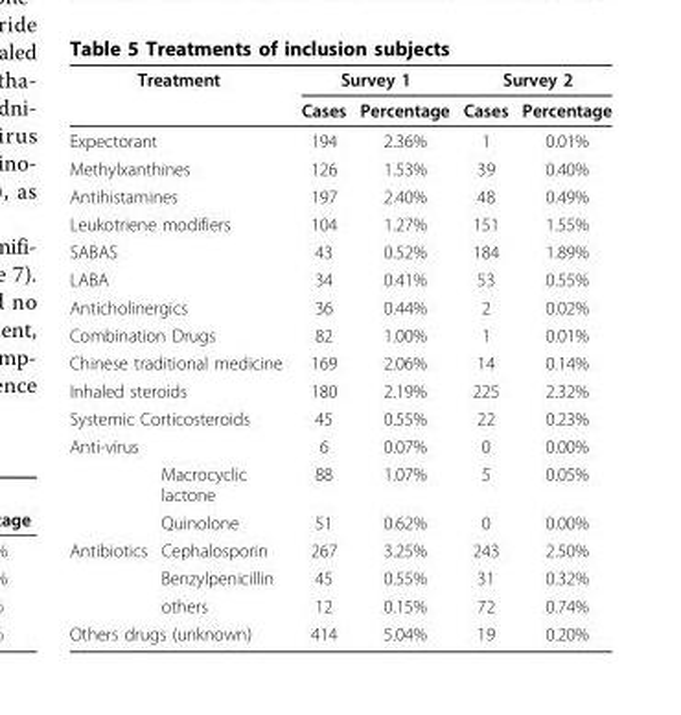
<table><thead><tr><td colspan="2">Treatment</td><td colspan="2">Survey 1</td><td colspan="2">Survey 2</td></tr><tr><td></td><td></td><td>Cases</td><td>Percentage</td><td>Cases</td><td>Percentage</td></tr></thead><tbody><tr><td colspan="2">Expectorant</td><td>194</td><td>2.36%</td><td>1</td><td>0.01%</td></tr><tr><td colspan="2">Methylxanthines</td><td>126</td><td>1.53%</td><td>39</td><td>0.40%</td></tr><tr><td colspan="2">Antihistamines</td><td>197</td><td>2.40%</td><td>48</td><td>0.49%</td></tr><tr><td colspan="2">Leukotriene modifiers</td><td>104</td><td>1.27%</td><td>151</td><td>1.55%</td></tr><tr><td colspan="2">SABAS</td><td>43</td><td>0.52%</td><td>184</td><td>1.89%</td></tr><tr><td colspan="2">LABA</td><td>34</td><td>0.41%</td><td>53</td><td>0.55%</td></tr><tr><td colspan="2">Anticholinergics</td><td>36</td><td>0.44%</td><td>2</td><td>0.02%</td></tr><tr><td colspan="2">Combination Drugs</td><td>82</td><td>1.00%</td><td>1</td><td>0.01%</td></tr><tr><td colspan="2">Chinese traditional medicine</td><td>169</td><td>2.06%</td><td>14</td><td>0.14%</td></tr><tr><td colspan="2">Inhaled steroids</td><td>180</td><td>2.19%</td><td>225</td><td>2.32%</td></tr><tr><td colspan="2">Systemic Corticosteroids</td><td>45</td><td>0.55%</td><td>22</td><td>0.23%</td></tr><tr><td colspan="2">Anti-virus</td><td>6</td><td>0.07%</td><td>0</td><td>0.00%</td></tr><tr><td></td><td>Macrocyclic lactone</td><td>88</td><td>1.07%</td><td>5</td><td>0.05%</td></tr><tr><td></td><td>Quinolone</td><td>51</td><td>0.62%</td><td>0</td><td>0.00%</td></tr><tr><td rowspan="3">Antibiotics</td><td>Cephalosporin</td><td>267</td><td>3.25%</td><td>243</td><td>2.50%</td></tr><tr><td>Benzylpenicillin</td><td>45</td><td>0.55%</td><td>31</td><td>0.32%</td></tr><tr><td>others</td><td>12</td><td>0.15%</td><td>72</td><td>0.74%</td></tr><tr><td colspan="2">Others drugs (unknown)</td><td>414</td><td>5.04%</td><td>19</td><td>0.20%</td></tr></tbody></table>